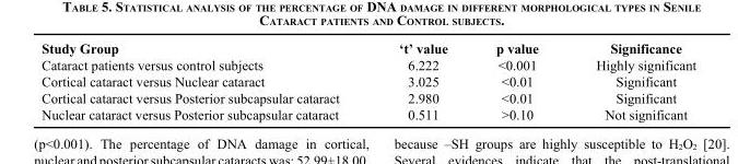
<table><thead><tr><td>Study Group</td><td>‘t’ value</td><td>p value</td><td>Significance</td></tr></thead><tbody><tr><td>Cataract patients versus control subjects</td><td>6.222</td><td>&lt;0.001</td><td>Highly significant</td></tr><tr><td>Cortical cataract versus Nuclear cataract</td><td>3.025</td><td>&lt;0.01</td><td>Significant</td></tr><tr><td>Cortical cataract versus Posterior subcapsular cataract</td><td>2.980</td><td>&lt;0.01</td><td>Significant</td></tr><tr><td>Nuclear cataract versus Posterior subcapsular cataract</td><td>0.511</td><td>&gt;0.10</td><td>Not significant</td></tr></tbody></table>